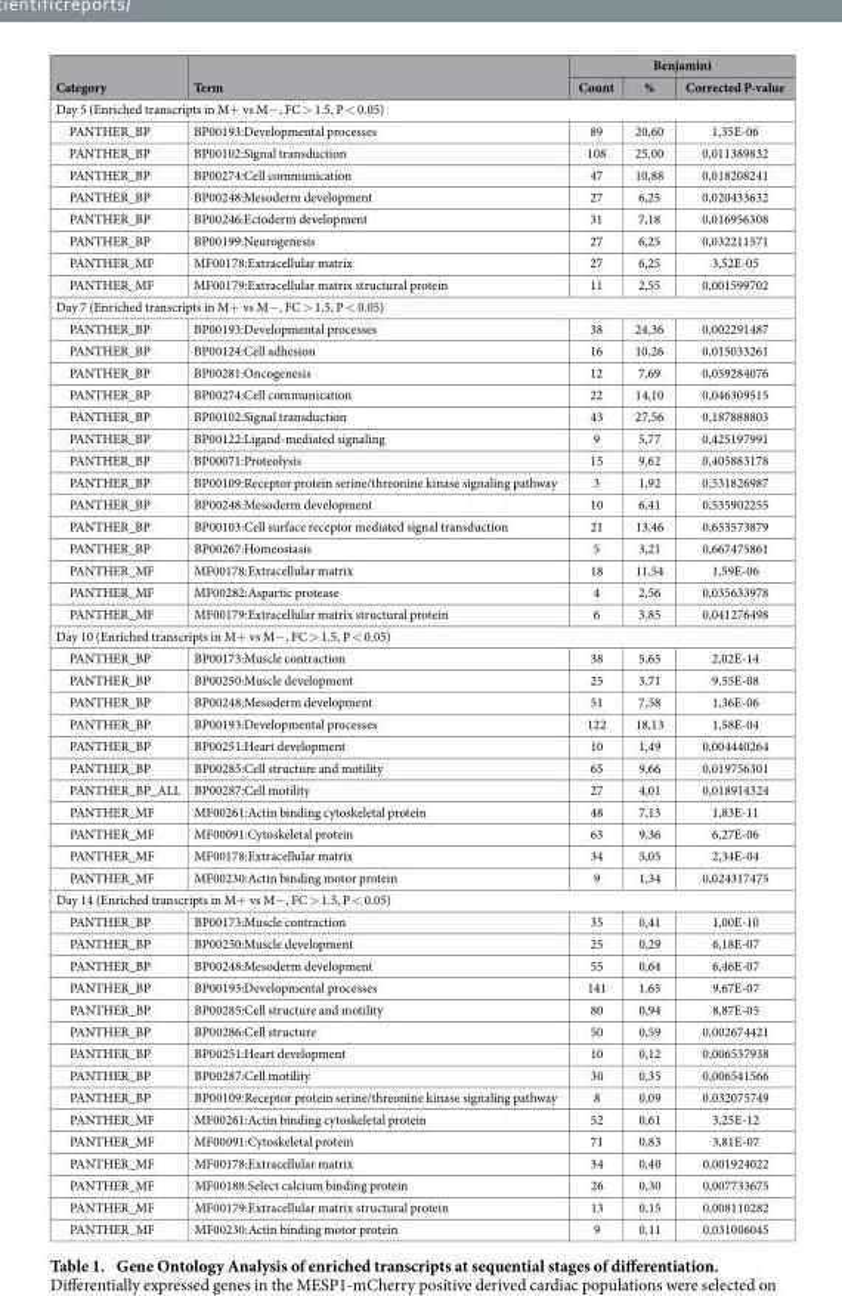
<table><thead><tr><td rowspan="2">Category</td><td rowspan="2">Term</td><td colspan="3">Benjamini</td></tr><tr><td>Count</td><td>%</td><td>Corrected P-value</td></tr></thead><tbody><tr><td colspan="5">Day 5 (Enriched transcripts in M+ vs M− , FC &gt; 1.5, P &lt; 0.05)</td></tr><tr><td>PANTHER_BP</td><td>BP00193:Developmental processes</td><td>89</td><td>20,60</td><td>1,35E-06</td></tr><tr><td>PANTHER_BP</td><td>BP00102:Signal transduction</td><td>108</td><td>25,00</td><td>0,011389832</td></tr><tr><td>PANTHER_BP</td><td>BP00274:Cell communication</td><td>47</td><td>10,88</td><td>0,018208241</td></tr><tr><td>PANTHER_BP</td><td>BP00248:Mesoderm development</td><td>27</td><td>6,25</td><td>0,020433632</td></tr><tr><td>PANTHER_BP</td><td>BP00246:Ectoderm development</td><td>31</td><td>7,18</td><td>0,016956308</td></tr><tr><td>PANTHER_BP</td><td>BP00199:Neurogenesis</td><td>27</td><td>6,25</td><td>0,032211571</td></tr><tr><td>PANTHER_MF</td><td>MF00178:Extracellular matrix</td><td>27</td><td>6,25</td><td>3,52E-05</td></tr><tr><td>PANTHER_MF</td><td>MF00179:Extracellular matrix structural protein</td><td>11</td><td>2,55</td><td>0,001599702</td></tr><tr><td colspan="5">Day 7 (Enriched transcripts in M+ vs M− , FC &gt; 1.5, P &lt; 0.05)</td></tr><tr><td>PANTHER_BP</td><td>BP00193:Developmental processes</td><td>38</td><td>24,36</td><td>0,002291487</td></tr><tr><td>PANTHER_BP</td><td>BP00124:Cell adhesion</td><td>16</td><td>10,26</td><td>0,015033261</td></tr><tr><td>PANTHER_BP</td><td>BP00281:Oncogenesis</td><td>12</td><td>7,69</td><td>0,059284076</td></tr><tr><td>PANTHER_BP</td><td>BP00274:Cell communication</td><td>22</td><td>14,10</td><td>0,046309515</td></tr><tr><td>PANTHER_BP</td><td>BP00102:Signal transduction</td><td>43</td><td>27,56</td><td>0,187888803</td></tr><tr><td>PANTHER_BP</td><td>BP00122:Ligand-mediated signaling</td><td>9</td><td>5,77</td><td>0,425197991</td></tr><tr><td>PANTHER_BP</td><td>BP00071:Proteolysis</td><td>15</td><td>9,62</td><td>0,405883178</td></tr><tr><td>PANTHER_BP</td><td>BP00109:Receptor protein serine/threonine kinase signaling pathway</td><td>3</td><td>1,92</td><td>0,531826987</td></tr><tr><td>PANTHER_BP</td><td>BP00248:Mesoderm development</td><td>10</td><td>6,41</td><td>0,535902255</td></tr><tr><td>PANTHER_BP</td><td>BP00103:Cell surface receptor mediated signal transduction</td><td>21</td><td>13,46</td><td>0,653573879</td></tr><tr><td>PANTHER_BP</td><td>BP00267:Homeostasis</td><td>5</td><td>3,21</td><td>0,667475861</td></tr><tr><td>PANTHER_MF</td><td>MF00178:Extracellular matrix</td><td>18</td><td>11,54</td><td>1,59E-06</td></tr><tr><td>PANTHER_MF</td><td>MF00282:Aspartic protease</td><td>4</td><td>2,56</td><td>0,035633978</td></tr><tr><td>PANTHER_MF</td><td>MF00179:Extracellular matrix structural protein</td><td>6</td><td>3,85</td><td>0,041276498</td></tr><tr><td colspan="5">Day 10 (Enriched transcripts in M+ vs M− , FC &gt; 1.5, P &lt; 0.05)</td></tr><tr><td>PANTHER_BP</td><td>BP00173:Muscle contraction</td><td>38</td><td>5,65</td><td>2,02E-14</td></tr><tr><td>PANTHER_BP</td><td>BP00250:Muscle development</td><td>25</td><td>3,71</td><td>9,55E-08</td></tr><tr><td>PANTHER_BP</td><td>BP00248:Mesoderm development</td><td>51</td><td>7,58</td><td>1,36E-06</td></tr><tr><td>PANTHER_BP</td><td>BP00193:Developmental processes</td><td>122</td><td>18,13</td><td>1,58E-04</td></tr><tr><td>PANTHER_BP</td><td>BP00251:Heart development</td><td>10</td><td>1,49</td><td>0,004440264</td></tr><tr><td>PANTHER_BP</td><td>BP00285:Cell structure and motility</td><td>65</td><td>9,66</td><td>0,019756301</td></tr><tr><td>PANTHER_BP_ALL</td><td>BP00287:Cell motility</td><td>27</td><td>4,01</td><td>0,018914324</td></tr><tr><td>PANTHER_MF</td><td>MF00261:Actin binding cytoskeletal protein</td><td>48</td><td>7,13</td><td>1,83E-11</td></tr><tr><td>PANTHER_MF</td><td>MF00091:Cytoskeletal protein</td><td>63</td><td>9,36</td><td>6,27E-06</td></tr><tr><td>PANTHER_MF</td><td>MF00178:Extracellular matrix</td><td>34</td><td>5,05</td><td>2,34E-04</td></tr><tr><td>PANTHER_MF</td><td>MF00230:Actin binding motor protein</td><td>9</td><td>1,34</td><td>0,024317475</td></tr><tr><td colspan="5">Day 14 (Enriched transcripts in M+ vs M− , FC &gt; 1.5, P &lt; 0.05)</td></tr><tr><td>PANTHER_BP</td><td>BP00173:Muscle contraction</td><td>35</td><td>0,41</td><td>1,00E-10</td></tr><tr><td>PANTHER_BP</td><td>BP00250:Muscle development</td><td>25</td><td>0,29</td><td>6,18E-07</td></tr><tr><td>PANTHER_BP</td><td>BP00248:Mesoderm development</td><td>55</td><td>0,64</td><td>6,46E-07</td></tr><tr><td>PANTHER_BP</td><td>BP00193:Developmental processes</td><td>141</td><td>1,65</td><td>9,67E-07</td></tr><tr><td>PANTHER_BP</td><td>BP00285:Cell structure and motility</td><td>80</td><td>0,94</td><td>8,87E-05</td></tr><tr><td>PANTHER_BP</td><td>BP00286:Cell structure</td><td>50</td><td>0,59</td><td>0,002674421</td></tr><tr><td>PANTHER_BP</td><td>BP00251:Heart development</td><td>10</td><td>0,12</td><td>0,006537938</td></tr><tr><td>PANTHER_BP</td><td>BP00287:Cell motility</td><td>30</td><td>0,35</td><td>0,006541566</td></tr><tr><td>PANTHER_BP</td><td>BP00109:Receptor protein serine/threonine kinase signaling pathway</td><td>8</td><td>0,09</td><td>0,032075749</td></tr><tr><td>PANTHER_MF</td><td>MF00261:Actin binding cytoskeletal protein</td><td>52</td><td>0,61</td><td>3,25E-12</td></tr><tr><td>PANTHER_MF</td><td>MF00091:Cytoskeletal protein</td><td>71</td><td>0,83</td><td>3,81E-07</td></tr><tr><td>PANTHER_MF</td><td>MF00178:Extracellular matrix</td><td>34</td><td>0,40</td><td>0,001924022</td></tr><tr><td>PANTHER_MF</td><td>MF00188:Select calcium binding protein</td><td>26</td><td>0,30</td><td>0,007733675</td></tr><tr><td>PANTHER_MF</td><td>MF00179:Extracellular matrix structural protein</td><td>13</td><td>0,15</td><td>0,008110282</td></tr><tr><td>PANTHER_MF</td><td>MF00230:Actin binding motor protein</td><td>9</td><td>0,11</td><td>0,031006045</td></tr></tbody></table>